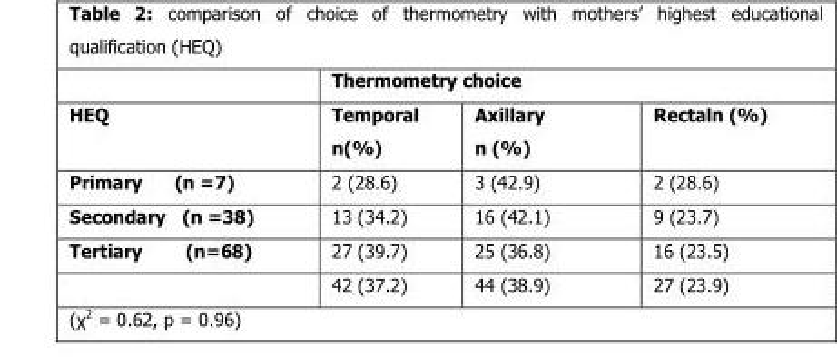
<table><thead><tr><td rowspan="2">HEQ</td><td colspan="3">Thermometry choice</td></tr><tr><td>Temporal n(%)</td><td>Axillary n (%)</td><td>Rectaln (%)</td></tr></thead><tbody><tr><td>Primary (n =7)</td><td>2 (28.6)</td><td>3 (42.9)</td><td>2 (28.6)</td></tr><tr><td>Secondary (n =38)</td><td>13 (34.2)</td><td>16 (42.1)</td><td>9 (23.7)</td></tr><tr><td rowspan="2">Tertiary (n=68)</td><td>27 (39.7)</td><td>25 (36.8)</td><td>16 (23.5)</td></tr><tr><td>42 (37.2)</td><td>44 (38.9)</td><td>27 (23.9)</td></tr></tbody></table>